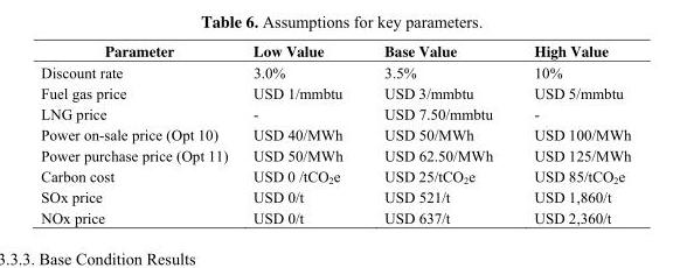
<table><thead><tr><td>Parameter</td><td>Low Value</td><td>Base Value</td><td>High Value</td></tr></thead><tbody><tr><td>Discount rate</td><td>3.0%</td><td>3.5%</td><td>10%</td></tr><tr><td>Fuel gas price</td><td>USD 1/mmbtu</td><td>USD 3/mmbtu</td><td>USD 5/mmbtu</td></tr><tr><td>LNG price</td><td>-</td><td>USD 7.50/mmbtu</td><td>-</td></tr><tr><td>Power on-sale price (Opt 10)</td><td>USD 40/MWh</td><td>USD 50/MWh</td><td>USD 100/MWh</td></tr><tr><td>Power purchase price (Opt 11)</td><td>USD 50/MWh</td><td>USD 62.50/MWh</td><td>USD 125/MWh</td></tr><tr><td>Carbon cost</td><td>USD 0 /tCO<sub>2</sub>e</td><td>USD 25/tCO<sub>2</sub>e</td><td>USD 85/tCO<sub>2</sub>e</td></tr><tr><td>SOx price</td><td>USD 0/t</td><td>USD 521/t</td><td>USD 1,860/t</td></tr><tr><td>NOx price</td><td>USD 0/t</td><td>USD 637/t</td><td>USD 2,360/t</td></tr></tbody></table>